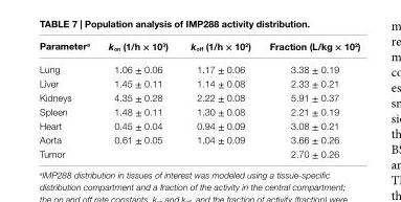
<table><thead><tr><td>Parameter<sup>a</sup></td><td>k<sub>on</sub> (1/h × 10<sup>3</sup>)</td><td>k<sub>off</sub> (1/h × 10<sup>2</sup>)</td><td>Fraction (l/kg × 10<sup>2</sup>)</td></tr></thead><tbody><tr><td>Lung</td><td>1.06 ± 0.06</td><td>1.17 ± 0.06</td><td>3.38 ± 0.19</td></tr><tr><td>Liver</td><td>1.45 ± 0.11</td><td>1.14 ± 0.08</td><td>2.33 ± 0.21</td></tr><tr><td>Kidneys</td><td>4.35 ± 0.28</td><td>2.22 ± 0.08</td><td>5.91 ± 0.37</td></tr><tr><td>Spleen</td><td>1.48 ± 0.11</td><td>1.30 ± 0.08</td><td>2.21 ± 0.19</td></tr><tr><td>Heart</td><td>0.45 ± 0.04</td><td>0.94 ± 0.09</td><td>3.08 ± 0.21</td></tr><tr><td>Aorta</td><td>0.61 ± 0.05</td><td>1.04 ± 0.09</td><td>3.66 ± 0.26</td></tr><tr><td>Tumor</td><td></td><td></td><td>2.70 ± 0.26</td></tr></tbody></table>